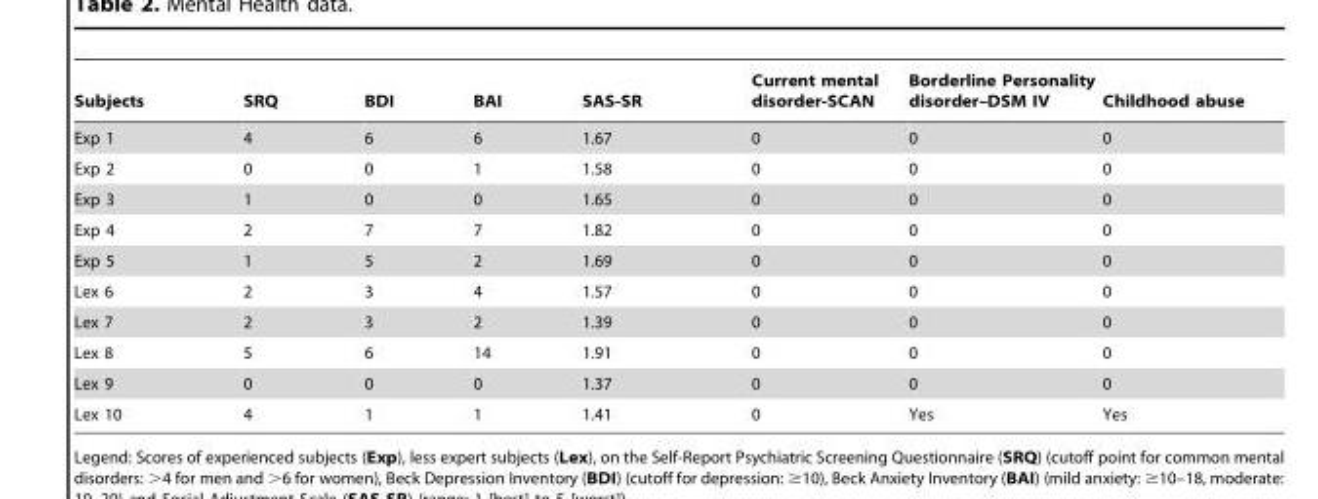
<table><thead><tr><td>Subjects</td><td>SRQ</td><td>BDI</td><td>BAI</td><td>SAS-SR</td><td>Current mental disorder-SCAN</td><td>Borderline Personality disorder–DSM IV</td><td>Childhood abuse</td></tr></thead><tbody><tr><td>Exp 1</td><td>4</td><td>6</td><td>6</td><td>1.67</td><td>0</td><td>0</td><td>0</td></tr><tr><td>Exp 2</td><td>0</td><td>0</td><td>1</td><td>1.58</td><td>0</td><td>0</td><td>0</td></tr><tr><td>Exp 3</td><td>1</td><td>0</td><td>0</td><td>1.65</td><td>0</td><td>0</td><td>0</td></tr><tr><td>Exp 4</td><td>2</td><td>7</td><td>7</td><td>1.82</td><td>0</td><td>0</td><td>0</td></tr><tr><td>Exp 5</td><td>1</td><td>5</td><td>2</td><td>1.69</td><td>0</td><td>0</td><td>0</td></tr><tr><td>Lex 6</td><td>2</td><td>3</td><td>4</td><td>1.57</td><td>0</td><td>0</td><td>0</td></tr><tr><td>Lex 7</td><td>2</td><td>3</td><td>2</td><td>1.39</td><td>0</td><td>0</td><td>0</td></tr><tr><td>Lex 8</td><td>5</td><td>6</td><td>14</td><td>1.91</td><td>0</td><td>0</td><td>0</td></tr><tr><td>Lex 9</td><td>0</td><td>0</td><td>0</td><td>1.37</td><td>0</td><td>0</td><td>0</td></tr><tr><td>Lex 10</td><td>4</td><td>1</td><td>1</td><td>1.41</td><td>0</td><td>Yes</td><td>Yes</td></tr></tbody></table>